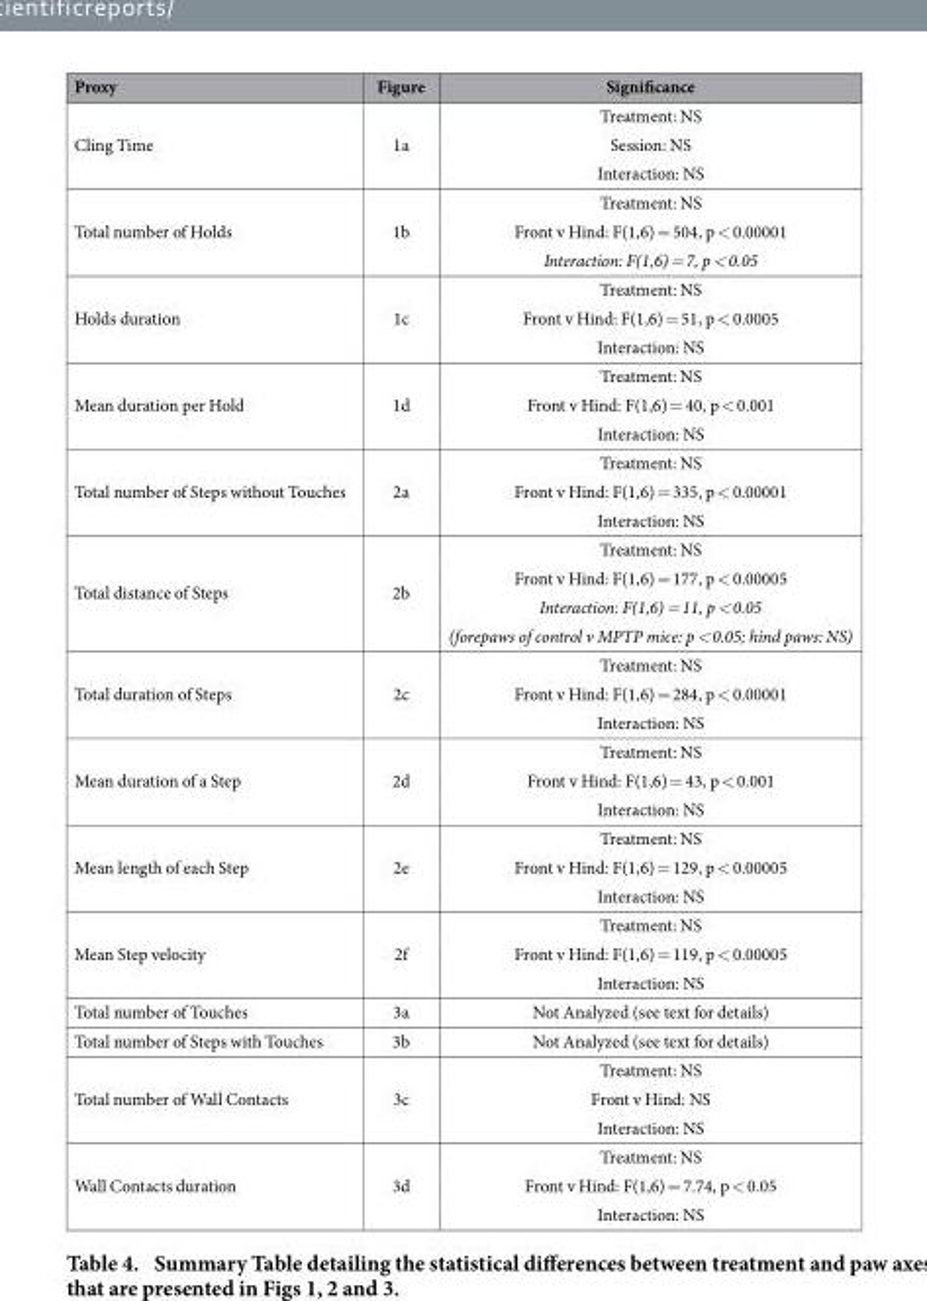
<table><thead><tr><td>Proxy</td><td>Figure</td><td>Significance</td></tr></thead><tbody><tr><td>Cling Time</td><td>1a</td><td>Treatment: NS Session: NS Interaction: NS</td></tr><tr><td>Total number of Holds</td><td>1b</td><td>Treatment: NS Front v Hind: F(1,6) = 504, p &lt; 0.00001 Interaction: F(1,6) = 7, p &lt; 0.05</td></tr><tr><td>Holds duration</td><td>1c</td><td>Treatment: NS Front v Hind: F(1,6) = 51, p &lt; 0.0005 Interaction: NS</td></tr><tr><td>Mean duration per Hold</td><td>1d</td><td>Treatment: NS Front v Hind: F(1,6) = 40, p &lt; 0.001 Interaction: NS</td></tr><tr><td>Total number of Steps without Touches</td><td>2a</td><td>Treatment: NS Front v Hind: F(1,6) = 335, p &lt; 0.00001 Interaction: NS</td></tr><tr><td>Total distance of Steps</td><td>2b</td><td>Treatment: NS Front v Hind: F(1,6) = 177, p &lt; 0.00005 Interaction: F(1,6) = 11, p &lt; 0.05 (forepaws of control v MPTP mice: p &lt; 0.05; hind paws: NS)</td></tr><tr><td>Total duration of Steps</td><td>2c</td><td>Treatment: NS Front v Hind: F(1,6) = 284, p &lt; 0.00001 Interaction: NS</td></tr><tr><td>Mean duration of a Step</td><td>2d</td><td>Treatment: NS Front v Hind: F(1,6) = 43, p &lt; 0.001 Interaction: NS</td></tr><tr><td>Mean length of each Step</td><td>2e</td><td>Treatment: NS Front v Hind: F(1,6) = 129, p &lt; 0.00005 Interaction: NS</td></tr><tr><td>Mean Step velocity</td><td>2f</td><td>Treatment: NS Front v Hind: F(1,6) = 119, p &lt; 0.00005 Interaction: NS</td></tr><tr><td>Total number of Touches</td><td>3a</td><td>Not Analyzed (see text for details)</td></tr><tr><td>Total number of Steps with Touches</td><td>3b</td><td>Not Analyzed (see text for details)</td></tr><tr><td>Total number of Wall Contacts</td><td>3c</td><td>Treatment: NS Front v Hind: NS Interaction: NS</td></tr><tr><td>Wall Contacts duration</td><td>3d</td><td>Treatment: NS Front v Hind: F(1,6) = 7.74, p &lt; 0.05 Interaction: NS</td></tr></tbody></table>